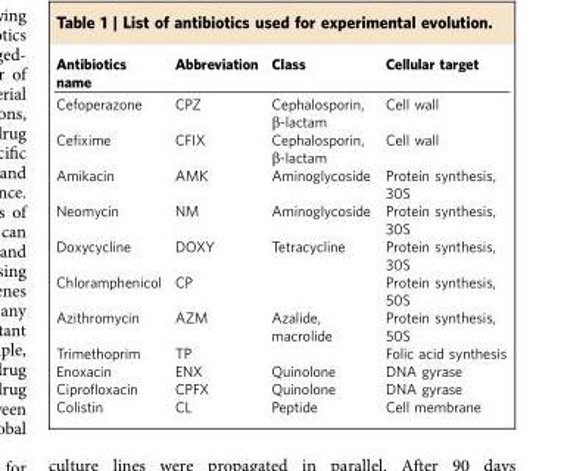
<table><thead><tr><td>Antibiotics name</td><td>Abbreviation</td><td>Class</td><td>Cellular target</td></tr></thead><tbody><tr><td>Cefoperazone</td><td>CPZ</td><td>Cephalosporin, β-lactam</td><td>Cell wall</td></tr><tr><td>Cefixime</td><td>CFIX</td><td>Cephalosporin, β-lactam</td><td>Cell wall</td></tr><tr><td>Amikacin</td><td>AMK</td><td>Aminoglycoside</td><td>Protein synthesis, 30S</td></tr><tr><td>Neomycin</td><td>NM</td><td>Aminoglycoside</td><td>Protein synthesis, 30S</td></tr><tr><td>Doxycycline</td><td>DOXY</td><td>Tetracycline</td><td>Protein synthesis, 30S</td></tr><tr><td>Chloramphenicol</td><td>CP</td><td></td><td>Protein synthesis, 50S</td></tr><tr><td>Azithromycin</td><td>AZM</td><td>Azalide, macrolide</td><td>Protein synthesis, 50S</td></tr><tr><td>Trimethoprim</td><td>TP</td><td></td><td>Folic acid synthesis</td></tr><tr><td>Enoxacin</td><td>ENX</td><td>Quinolone</td><td>DNA gyrase</td></tr><tr><td>Ciprofloxacin</td><td>CPFX</td><td>Quinolone</td><td>DNA gyrase</td></tr><tr><td>Colistin</td><td>CL</td><td>Peptide</td><td>Cell membrane</td></tr></tbody></table>